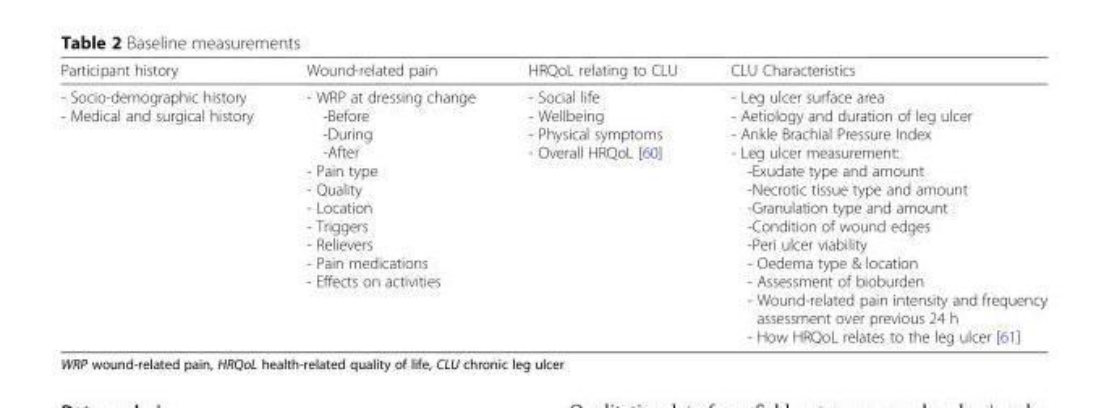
<table><thead><tr><td>Participant history</td><td>Wound-related pain</td><td>HRQoL relating to CLU</td><td>CLU Characteristics</td></tr></thead><tbody><tr><td>- Socio-demographic history - Medical and surgical history</td><td>- WRP at dressing change -Before -During -After - Pain type - Quality - Location - Triggers - Relievers - Pain medications - Effects on activities</td><td>- Social life - Wellbeing - Physical symptoms - Overall HRQoL [60]</td><td>- Leg ulcer surface area - Aetiology and duration of leg ulcer - Ankle Brachial Pressure Index - Leg ulcer measurement: -Exudate type and amount -Necrotic tissue type and amount -Granulation type and amount -Condition of wound edges -Peri ulcer viability - Oedema type &amp; location - Assessment of bioburden - Wound-related pain intensity and frequency assessment over previous 24 h - How HRQoL relates to the leg ulcer [61]</td></tr></tbody></table>